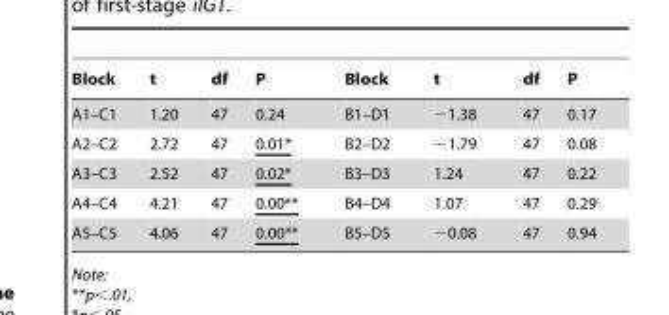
<table><thead><tr><td>Block</td><td>t</td><td>df</td><td>P</td><td>Block</td><td>t</td><td>df</td><td>P</td></tr></thead><tbody><tr><td>A1–C1</td><td>1.20</td><td>47</td><td>0.24</td><td>B1–D1</td><td>−1.38</td><td>47</td><td>0.17</td></tr><tr><td>A2–C2</td><td>2.72</td><td>47</td><td>0.01*</td><td>B2–D2</td><td>−1.79</td><td>47</td><td>0.08</td></tr><tr><td>A3–C3</td><td>2.52</td><td>47</td><td>0.02*</td><td>B3–D3</td><td>1.24</td><td>47</td><td>0.22</td></tr><tr><td>A4–C4</td><td>4.21</td><td>47</td><td>0.00**</td><td>B4–D4</td><td>1.07</td><td>47</td><td>0.29</td></tr><tr><td>A5–C5</td><td>4.06</td><td>47</td><td>0.00**</td><td>B5–D5</td><td>−0.08</td><td>47</td><td>0.94</td></tr></tbody></table>